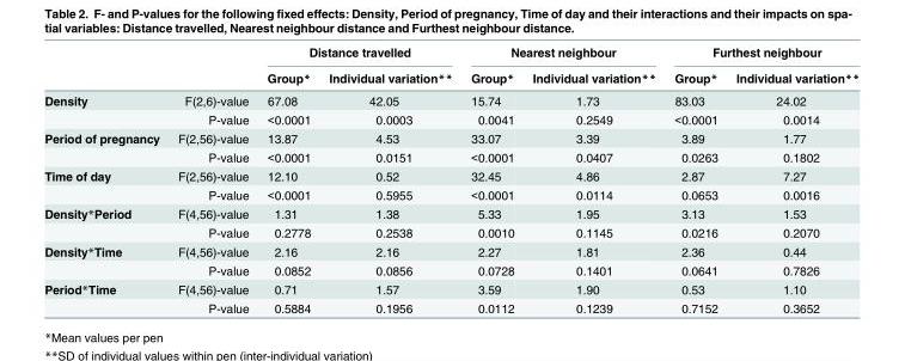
<table><thead><tr><td rowspan="2"></td><td rowspan="2"></td><td colspan="2">Distance travelled</td><td colspan="2">Nearest neighbour</td><td colspan="2">Furthest neighbour</td></tr><tr><td>Group*</td><td>Individual variation**</td><td>Group*</td><td>Individual variation**</td><td>Group*</td><td>Individual variation**</td></tr></thead><tbody><tr><td rowspan="2">Density</td><td>F(2,6)-value</td><td>67.08</td><td>42.05</td><td>15.74</td><td>1.73</td><td>83.03</td><td>24.02</td></tr><tr><td>P-value</td><td>&lt;0.0001</td><td>0.0003</td><td>0.0041</td><td>0.2549</td><td>&lt;0.0001</td><td>0.0014</td></tr><tr><td rowspan="2">Period of pregnancy</td><td>F(2,56)-value</td><td>13.87</td><td>4.53</td><td>33.07</td><td>3.39</td><td>3.89</td><td>1.77</td></tr><tr><td>P-value</td><td>&lt;0.0001</td><td>0.0151</td><td>&lt;0.0001</td><td>0.0407</td><td>0.0263</td><td>0.1802</td></tr><tr><td rowspan="2">Time of day</td><td>F(2,56)-value</td><td>12.10</td><td>0.52</td><td>32.45</td><td>4.86</td><td>2.87</td><td>7.27</td></tr><tr><td>P-value</td><td>&lt;0.0001</td><td>0.5955</td><td>&lt;0.0001</td><td>0.0114</td><td>0.0653</td><td>0.0016</td></tr><tr><td rowspan="2">Density*Period</td><td>F(4,56)-value</td><td>1.31</td><td>1.38</td><td>5.33</td><td>1.95</td><td>3.13</td><td>1.53</td></tr><tr><td>P-value</td><td>0.2778</td><td>0.2538</td><td>0.0010</td><td>0.1145</td><td>0.0216</td><td>0.2070</td></tr><tr><td rowspan="2">Density*Time</td><td>F(4,56)-value</td><td>2.16</td><td>2.16</td><td>2.27</td><td>1.81</td><td>2.36</td><td>0.44</td></tr><tr><td>P-value</td><td>0.0852</td><td>0.0856</td><td>0.0728</td><td>0.1401</td><td>0.0641</td><td>0.7826</td></tr><tr><td rowspan="2">Period*Time</td><td>F(4,56)-value</td><td>0.71</td><td>1.57</td><td>3.59</td><td>1.90</td><td>0.53</td><td>1.10</td></tr><tr><td>P-value</td><td>0.5884</td><td>0.1956</td><td>0.0112</td><td>0.1239</td><td>0.7152</td><td>0.3652</td></tr></tbody></table>